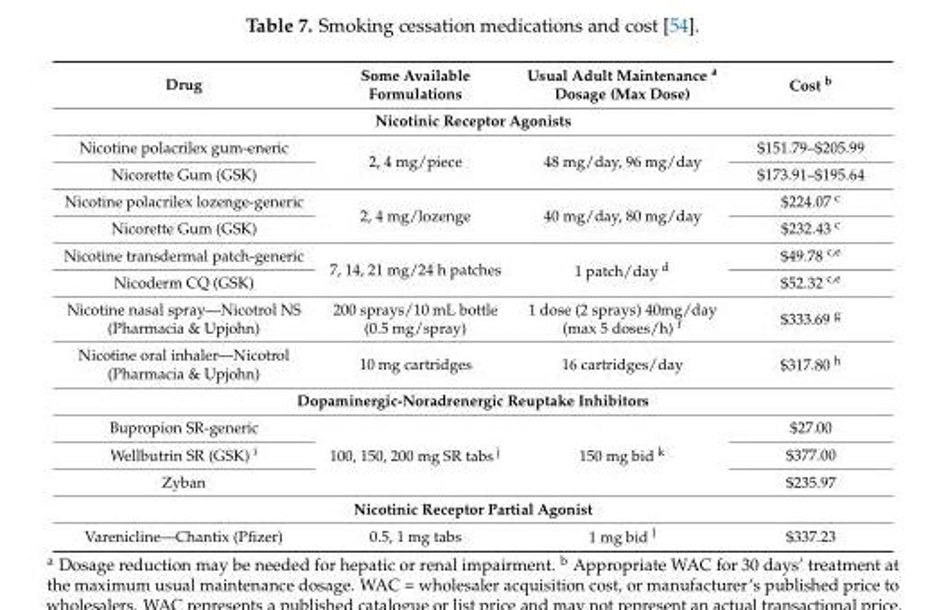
<table><thead><tr><td>Drug</td><td>Some Available Formulations</td><td>Usual Adult Maintenance <sup>a</sup> Dosage (Max Dose)</td><td>Cost <sup>b</sup></td></tr></thead><tbody><tr><td colspan="4">Nicotinic Receptor Agonists</td></tr><tr><td>Nicotine polacrilex gum-eneric</td><td rowspan="2">2, 4 mg/piece</td><td rowspan="2">48 mg/day, 96 mg/day</td><td>$151.79–$205.99</td></tr><tr><td>Nicorette Gum (GSK)</td><td>$173.91–$195.64</td></tr><tr><td>Nicotine polacrilex lozenge-generic</td><td rowspan="2">2, 4 mg/lozenge</td><td rowspan="2">40 mg/day, 80 mg/day</td><td>$224.07 <sup>c</sup></td></tr><tr><td>Nicorette Gum (GSK)</td><td>$232.43 <sup>c</sup></td></tr><tr><td>Nicotine transdermal patch-generic</td><td rowspan="2">7, 14, 21 mg/24 h patches</td><td rowspan="2">1 patch/day <sup>d</sup></td><td>$49.78 <sup>c,e</sup></td></tr><tr><td>Nicoderm CQ (GSK)</td><td>$52.32 <sup>c,e</sup></td></tr><tr><td>Nicotine nasal spray—Nicotrol NS (Pharmacia &amp; Upjohn)</td><td>200 sprays/10 mL bottle (0.5 mg/spray)</td><td>1 dose (2 sprays) 40mg/day (max 5 doses/h) <sup>f</sup></td><td>$333.69 <sup>g</sup></td></tr><tr><td>Nicotine oral inhaler—Nicotrol (Pharmacia &amp; Upjohn)</td><td>10 mg cartridges</td><td>16 cartridges/day</td><td>$317.80 <sup>h</sup></td></tr><tr><td colspan="4">Dopaminergic-Noradrenergic Reuptake Inhibitors</td></tr><tr><td>Bupropion SR-generic</td><td rowspan="3">100, 150, 200 mg SR tabs <sup>j</sup></td><td rowspan="3">150 mg bid <sup>k</sup></td><td>$27.00</td></tr><tr><td>Wellbutrin SR (GSK) <sup>i</sup></td><td>$377.00</td></tr><tr><td>Zyban</td><td>$235.97</td></tr><tr><td colspan="4">Nicotinic Receptor Partial Agonist</td></tr><tr><td>Varenicline—Chantix (Pfizer)</td><td>0.5, 1 mg tabs</td><td>1 mg bid <sup>l</sup></td><td>$337.23</td></tr></tbody></table>